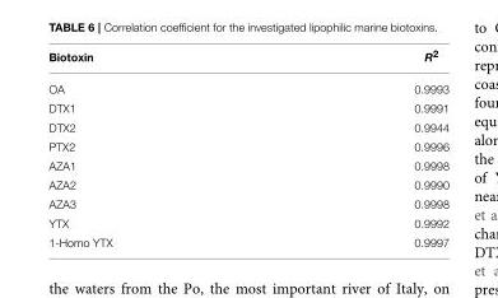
<table><thead><tr><td>Biotoxin</td><td>R<sup>2</sup></td></tr></thead><tbody><tr><td>OA</td><td>0.9993</td></tr><tr><td>DTX1</td><td>0.9991</td></tr><tr><td>DTX2</td><td>0.9944</td></tr><tr><td>PTX2</td><td>0.9996</td></tr><tr><td>AZA1</td><td>0.9998</td></tr><tr><td>AZA2</td><td>0.9990</td></tr><tr><td>AZA3</td><td>0.9998</td></tr><tr><td>YTX</td><td>0.9992</td></tr><tr><td>1-Homo YTX</td><td>0.9997</td></tr></tbody></table>